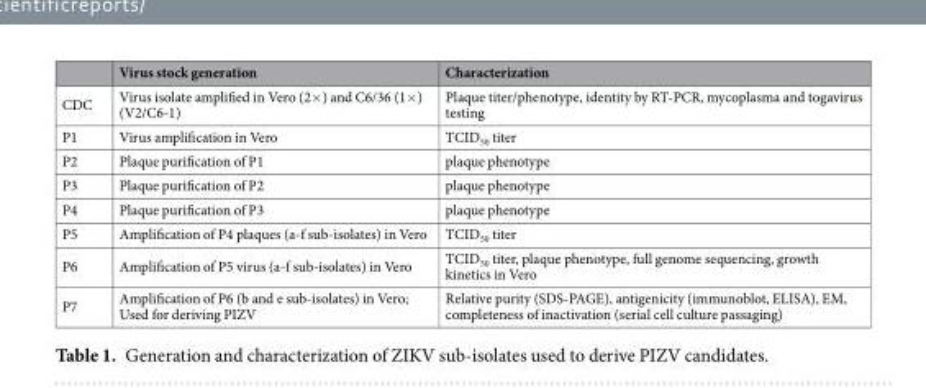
<table><thead><tr><td></td><td>Virus stock generation</td><td>Characterization</td></tr></thead><tbody><tr><td>CDC</td><td>Virus isolate amplified in Vero (2×) and C6/36 (1×) (V2/C6-1)</td><td>Plaque titer/phenotype, identity by RT-PCR, mycoplasma and togavirus testing</td></tr><tr><td>P1</td><td>Virus amplification in Vero</td><td>TCID<sub>50</sub> titer</td></tr><tr><td>P2</td><td>Plaque purification of P1</td><td>plaque phenotype</td></tr><tr><td>P3</td><td>Plaque purification of P2</td><td>plaque phenotype</td></tr><tr><td>P4</td><td>Plaque purification of P3</td><td>plaque phenotype</td></tr><tr><td>P5</td><td>Amplification of P4 plaques (a-f sub-isolates) in Vero</td><td>TCID<sub>50</sub> titer</td></tr><tr><td>P6</td><td>Amplification of P5 virus (a-f sub-isolates) in Vero</td><td>TCID<sub>50</sub> titer, plaque phenotype, full genome sequencing, growth kinetics in Vero</td></tr><tr><td>P7</td><td>Amplification of P6 (b and e sub-isolates) in Vero; Used for deriving PIZV</td><td>Relative purity (SDS-PAGE), antigenicity (immunoblot, ELISA), EM, completeness of inactivation (serial cell culture passaging)</td></tr></tbody></table>